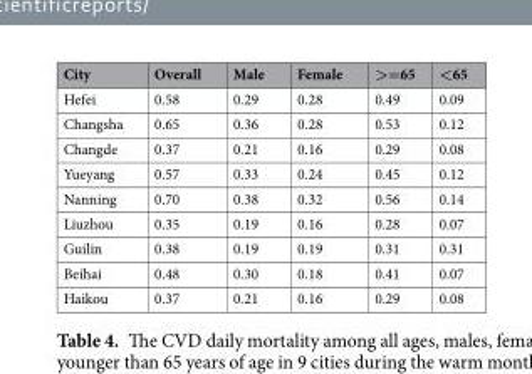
<table><thead><tr><td>City</td><td>Overall</td><td>Male</td><td>Female</td><td>&gt;=65</td><td>&lt;65</td></tr></thead><tbody><tr><td>Hefei</td><td>0.58</td><td>0.29</td><td>0.28</td><td>0.49</td><td>0.09</td></tr><tr><td>Changsha</td><td>0.65</td><td>0.36</td><td>0.28</td><td>0.53</td><td>0.12</td></tr><tr><td>Changde</td><td>0.37</td><td>0.21</td><td>0.16</td><td>0.29</td><td>0.08</td></tr><tr><td>Yueyang</td><td>0.57</td><td>0.33</td><td>0.24</td><td>0.45</td><td>0.12</td></tr><tr><td>Nanning</td><td>0.70</td><td>0.38</td><td>0.32</td><td>0.56</td><td>0.14</td></tr><tr><td>Liuzhou</td><td>0.35</td><td>0.19</td><td>0.16</td><td>0.28</td><td>0.07</td></tr><tr><td>Guilin</td><td>0.38</td><td>0.19</td><td>0.19</td><td>0.31</td><td>0.31</td></tr><tr><td>Beihai</td><td>0.48</td><td>0.30</td><td>0.18</td><td>0.41</td><td>0.07</td></tr><tr><td>Haikou</td><td>0.37</td><td>0.21</td><td>0.16</td><td>0.29</td><td>0.08</td></tr></tbody></table>